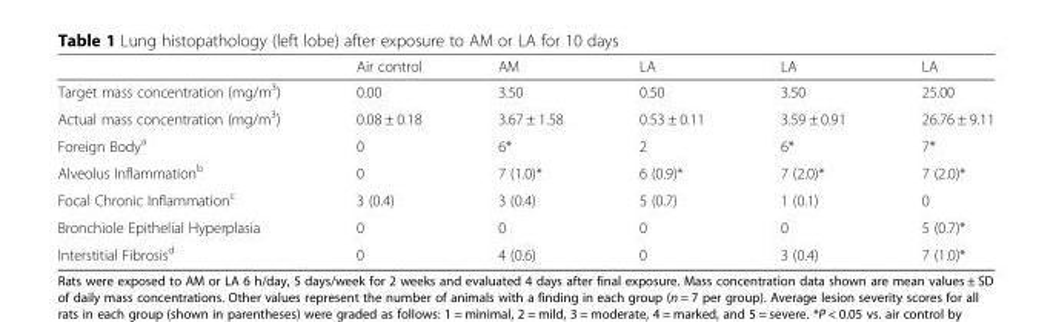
<table><thead><tr><td></td><td>Air control</td><td>AM</td><td>LA</td><td>LA</td><td>LA</td></tr></thead><tbody><tr><td>Target mass concentration (mg/m<sup>3</sup>)</td><td>0.00</td><td>3.50</td><td>0.50</td><td>3.50</td><td>25.00</td></tr><tr><td>Actual mass concentration (mg/m<sup>3</sup>)</td><td>0.08 ± 0.18</td><td>3.67 ± 1.58</td><td>0.53 ± 0.11</td><td>3.59 ± 0.91</td><td>26.76 ± 9.11</td></tr><tr><td>Foreign Body<sup>a</sup></td><td>0</td><td>6*</td><td>2</td><td>6*</td><td>7*</td></tr><tr><td>Alveolus Inflammation<sup>b</sup></td><td>0</td><td>7 (1.0)*</td><td>6 (0.9)*</td><td>7 (2.0)*</td><td>7 (2.0)*</td></tr><tr><td>Focal Chronic Inflammation<sup>c</sup></td><td>3 (0.4)</td><td>3 (0.4)</td><td>5 (0.7)</td><td>1 (0.1)</td><td>0</td></tr><tr><td>Bronchiole Epithelial Hyperplasia</td><td>0</td><td>0</td><td>0</td><td>0</td><td>5 (0.7)*</td></tr><tr><td>Interstitial Fibrosis<sup>d</sup></td><td>0</td><td>4 (0.6)</td><td>0</td><td>3 (0.4)</td><td>7 (1.0)*</td></tr></tbody></table>